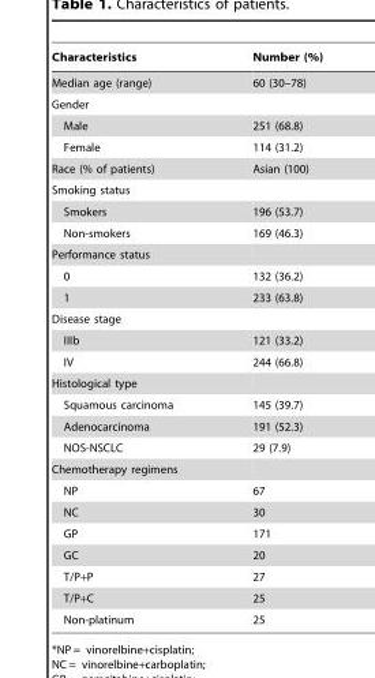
<table><thead><tr><td>Characteristics</td><td>Number (%)</td></tr></thead><tbody><tr><td>Median age (range)</td><td>60 (30–78)</td></tr><tr><td colspan="2">Gender</td></tr><tr><td>Male</td><td>251 (68.8)</td></tr><tr><td>Female</td><td>114 (31.2)</td></tr><tr><td>Race (% of patients)</td><td>Asian (100)</td></tr><tr><td colspan="2">Smoking status</td></tr><tr><td>Smokers</td><td>196 (53.7)</td></tr><tr><td>Non-smokers</td><td>169 (46.3)</td></tr><tr><td colspan="2">Performance status</td></tr><tr><td>0</td><td>132 (36.2)</td></tr><tr><td>1</td><td>233 (63.8)</td></tr><tr><td colspan="2">Disease stage</td></tr><tr><td>IIIb</td><td>121 (33.2)</td></tr><tr><td>IV</td><td>244 (66.8)</td></tr><tr><td colspan="2">Histological type</td></tr><tr><td>Squamous carcinoma</td><td>145 (39.7)</td></tr><tr><td>Adenocarcinoma</td><td>191 (52.3)</td></tr><tr><td>NOS-NSCLC</td><td>29 (7.9)</td></tr><tr><td colspan="2">Chemotherapy regimens</td></tr><tr><td>NP</td><td>67</td></tr><tr><td>NC</td><td>30</td></tr><tr><td>GP</td><td>171</td></tr><tr><td>GC</td><td>20</td></tr><tr><td>T/P+P</td><td>27</td></tr><tr><td>T/P+C</td><td>25</td></tr><tr><td>Non-platinum</td><td>25</td></tr></tbody></table>